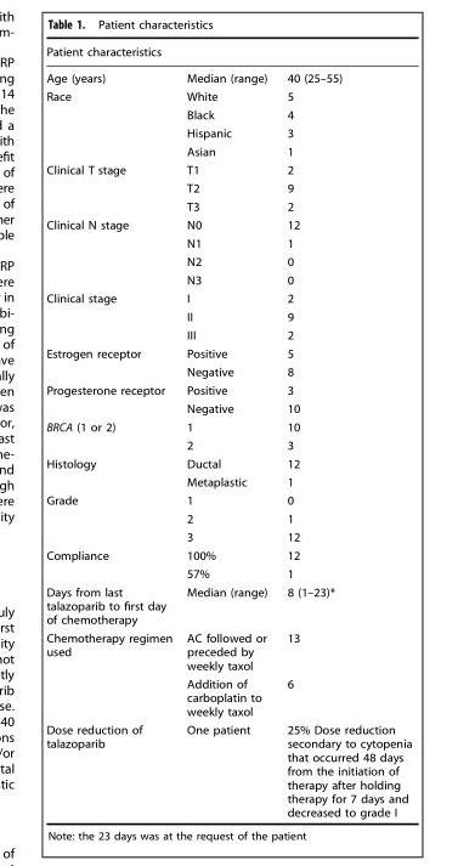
<table><thead><tr><td colspan="3">Patient characteristics</td></tr><tr><td>Age (years)</td><td>Median (range)</td><td>40 (25–55)</td></tr></thead><tbody><tr><td rowspan="4">Race</td><td>White</td><td>5</td></tr><tr><td>Black</td><td>4</td></tr><tr><td>Hispanic</td><td>3</td></tr><tr><td>Asian</td><td>1</td></tr><tr><td rowspan="3">Clinical T stage</td><td>T1</td><td>2</td></tr><tr><td>T2</td><td>9</td></tr><tr><td>T3</td><td>2</td></tr><tr><td rowspan="4">Clinical N stage</td><td>N0</td><td>12</td></tr><tr><td>N1</td><td>1</td></tr><tr><td>N2</td><td>0</td></tr><tr><td>N3</td><td>0</td></tr><tr><td rowspan="3">Clinical stage</td><td>I</td><td>2</td></tr><tr><td>II</td><td>9</td></tr><tr><td>III</td><td>2</td></tr><tr><td rowspan="2">Estrogen receptor</td><td>Positive</td><td>5</td></tr><tr><td>Negative</td><td>8</td></tr><tr><td rowspan="2">Progesterone receptor</td><td>Positive</td><td>3</td></tr><tr><td>Negative</td><td>10</td></tr><tr><td rowspan="2">BRCA (1 or 2)</td><td>1</td><td>10</td></tr><tr><td>2</td><td>3</td></tr><tr><td rowspan="2">Histology</td><td>Ductal</td><td>12</td></tr><tr><td>Metaplastic</td><td>1</td></tr><tr><td rowspan="3">Grade</td><td>1</td><td>0</td></tr><tr><td>2</td><td>1</td></tr><tr><td>3</td><td>12</td></tr><tr><td rowspan="2">Compliance</td><td>100%</td><td>12</td></tr><tr><td>57%</td><td>1</td></tr><tr><td>Days from last talazoparib to first day of chemotherapy</td><td>Median (range)</td><td>8 (1–23)*</td></tr><tr><td rowspan="2">Chemotherapy regimen used</td><td>AC followed or preceded by weekly taxol</td><td>13</td></tr><tr><td>Addition of carboplatin to weekly taxol</td><td>6</td></tr><tr><td>Dose reduction of talazoparib</td><td>One patient</td><td>25% Dose reduction secondary to cytopenia that occurred 48 days from the initiation of therapy after holding therapy for 7 days and decreased to grade I</td></tr></tbody></table>